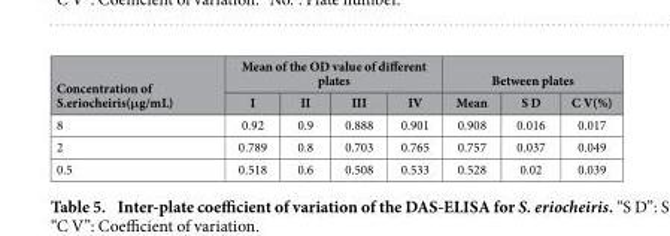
<table><thead><tr><td rowspan="2">Concentration of S.eriocheiris(μg/mL)</td><td colspan="4">Mean of the OD value of different plates</td><td colspan="3">Between plates</td></tr><tr><td>I</td><td>II</td><td>III</td><td>IV</td><td>Mean</td><td>S D</td><td>C V(%)</td></tr></thead><tbody><tr><td>8</td><td>0.92</td><td>0.9</td><td>0.888</td><td>0.901</td><td>0.908</td><td>0.016</td><td>0.017</td></tr><tr><td>2</td><td>0.789</td><td>0.8</td><td>0.703</td><td>0.765</td><td>0.757</td><td>0.037</td><td>0.049</td></tr><tr><td>0.5</td><td>0.518</td><td>0.6</td><td>0.508</td><td>0.533</td><td>0.528</td><td>0.02</td><td>0.039</td></tr></tbody></table>